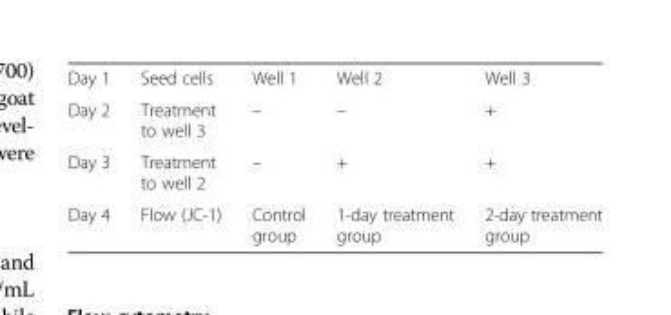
<table><tbody><tr><td>Day 1</td><td>Seed cells</td><td>Well 1</td><td>Well 2</td><td>Well 3</td></tr><tr><td>Day 2</td><td>Treatment to well 3</td><td>–</td><td>–</td><td>+</td></tr><tr><td>Day 3</td><td>Treatment to well 2</td><td>–</td><td>+</td><td>+</td></tr><tr><td>Day 4</td><td>Flow (JC-1)</td><td>Control group</td><td>1-day treatment group</td><td>2-day treatment group</td></tr></tbody></table>